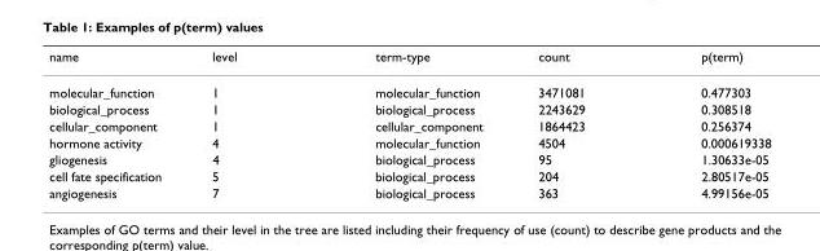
<table><thead><tr><td>name</td><td>level</td><td>term-type</td><td>count</td><td>p(term)</td></tr></thead><tbody><tr><td>molecular_function</td><td>1</td><td>molecular_function</td><td>3471081</td><td>0.477303</td></tr><tr><td>biological_process</td><td>1</td><td>biological_process</td><td>2243629</td><td>0.308518</td></tr><tr><td>cellular_component</td><td>1</td><td>cellular_component</td><td>1864423</td><td>0.256374</td></tr><tr><td>hormone activity</td><td>4</td><td>molecular_function</td><td>4504</td><td>0.000619338</td></tr><tr><td>gliogenesis</td><td>4</td><td>biological_process</td><td>95</td><td>1.30633e-05</td></tr><tr><td>cell fate specification</td><td>5</td><td>biological_process</td><td>204</td><td>2.80517e-05</td></tr><tr><td>angiogenesis</td><td>7</td><td>biological_process</td><td>363</td><td>4.99156e-05</td></tr></tbody></table>